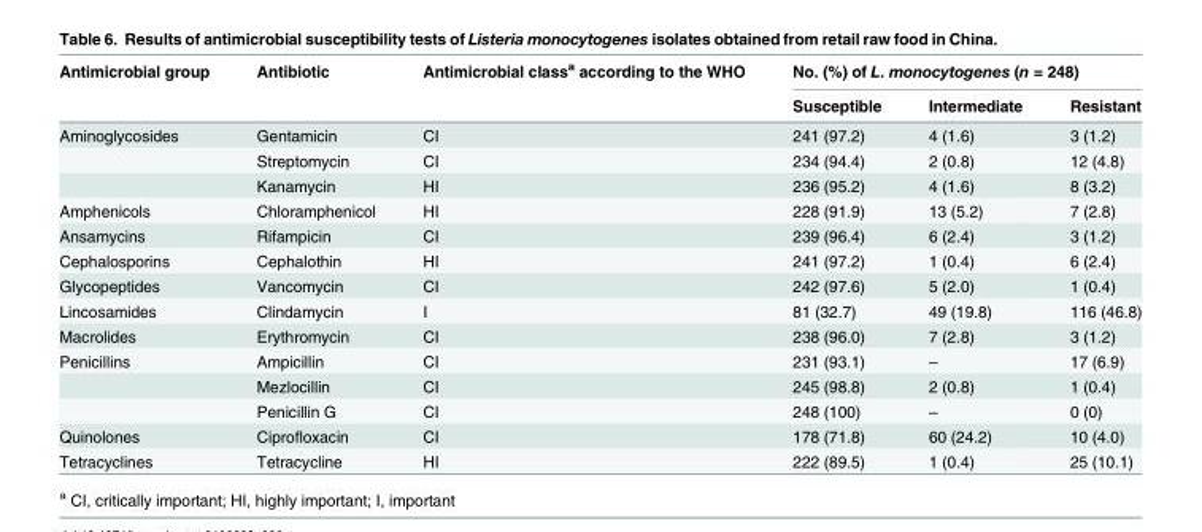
<table><thead><tr><td rowspan="2">Antimicrobial group</td><td rowspan="2">Antibiotic</td><td rowspan="2">Antimicrobial class<sup>a</sup> according to the WHO</td><td colspan="3">No. (%) of L. monocytogenes (n = 248)</td></tr><tr><td>Susceptible</td><td>Intermediate</td><td>Resistant</td></tr></thead><tbody><tr><td rowspan="3">Aminoglycosides</td><td>Gentamicin</td><td>CI</td><td>241 (97.2)</td><td>4 (1.6)</td><td>3 (1.2)</td></tr><tr><td>Streptomycin</td><td>CI</td><td>234 (94.4)</td><td>2 (0.8)</td><td>12 (4.8)</td></tr><tr><td>Kanamycin</td><td>HI</td><td>236 (95.2)</td><td>4 (1.6)</td><td>8 (3.2)</td></tr><tr><td>Amphenicols</td><td>Chloramphenicol</td><td>HI</td><td>228 (91.9)</td><td>13 (5.2)</td><td>7 (2.8)</td></tr><tr><td>Ansamycins</td><td>Rifampicin</td><td>CI</td><td>239 (96.4)</td><td>6 (2.4)</td><td>3 (1.2)</td></tr><tr><td>Cephalosporins</td><td>Cephalothin</td><td>HI</td><td>241 (97.2)</td><td>1 (0.4)</td><td>6 (2.4)</td></tr><tr><td>Glycopeptides</td><td>Vancomycin</td><td>CI</td><td>242 (97.6)</td><td>5 (2.0)</td><td>1 (0.4)</td></tr><tr><td>Lincosamides</td><td>Clindamycin</td><td>I</td><td>81 (32.7)</td><td>49 (19.8)</td><td>116 (46.8)</td></tr><tr><td>Macrolides</td><td>Erythromycin</td><td>CI</td><td>238 (96.0)</td><td>7 (2.8)</td><td>3 (1.2)</td></tr><tr><td rowspan="3">Penicillins</td><td>Ampicillin</td><td>CI</td><td>231 (93.1)</td><td>–</td><td>17 (6.9)</td></tr><tr><td>Mezlocillin</td><td>CI</td><td>245 (98.8)</td><td>2 (0.8)</td><td>1 (0.4)</td></tr><tr><td>Penicillin G</td><td>CI</td><td>248 (100)</td><td>–</td><td>0 (0)</td></tr><tr><td>Quinolones</td><td>Ciprofloxacin</td><td>CI</td><td>178 (71.8)</td><td>60 (24.2)</td><td>10 (4.0)</td></tr><tr><td>Tetracyclines</td><td>Tetracycline</td><td>HI</td><td>222 (89.5)</td><td>1 (0.4)</td><td>25 (10.1)</td></tr></tbody></table>